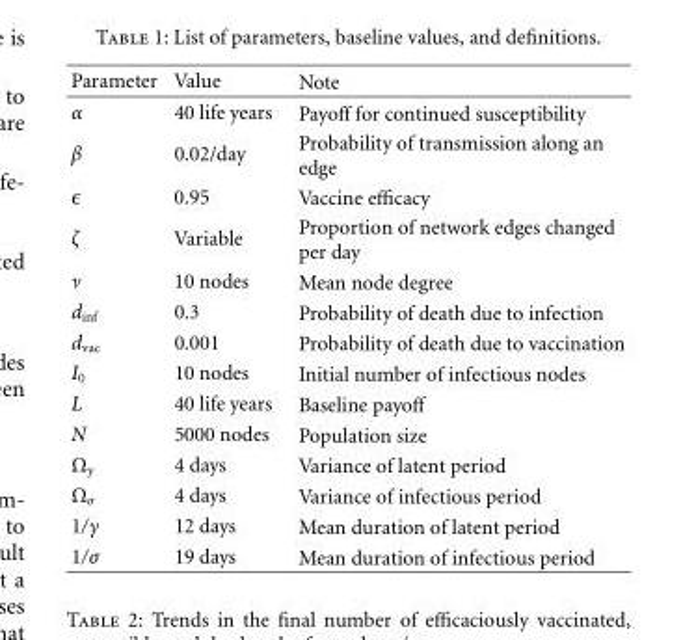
<table><thead><tr><td>Parameter</td><td>Value</td><td>Note</td></tr></thead><tbody><tr><td>α</td><td>40 life years</td><td>Payoff for continued susceptibility</td></tr><tr><td>β</td><td>0.02/day</td><td>Probability of transmission along an edge</td></tr><tr><td>ϵ</td><td>0.95</td><td>Vaccine efficacy</td></tr><tr><td>ζ</td><td>Variable</td><td>Proportion of network edges changed per day</td></tr><tr><td>ν</td><td>10 nodes</td><td>Mean node degree</td></tr><tr><td>d<sub>inf</sub></td><td>0.3</td><td>Probability of death due to infection</td></tr><tr><td>d<sub>vac</sub></td><td>0.001</td><td>Probability of death due to vaccination</td></tr><tr><td>I<sub>0</sub></td><td>10 nodes</td><td>Initial number of infectious nodes</td></tr><tr><td>L</td><td>40 life years</td><td>Baseline payoff</td></tr><tr><td>N</td><td>5000 nodes</td><td>Population size</td></tr><tr><td>Ω<sub>γ</sub></td><td>4 days</td><td>Variance of latent period</td></tr><tr><td>Ω<sub>σ</sub></td><td>4 days</td><td>Variance of infectious period</td></tr><tr><td>1/γ</td><td>12 days</td><td>Mean duration of latent period</td></tr><tr><td>1/σ</td><td>19 days</td><td>Mean duration of infectious period</td></tr></tbody></table>